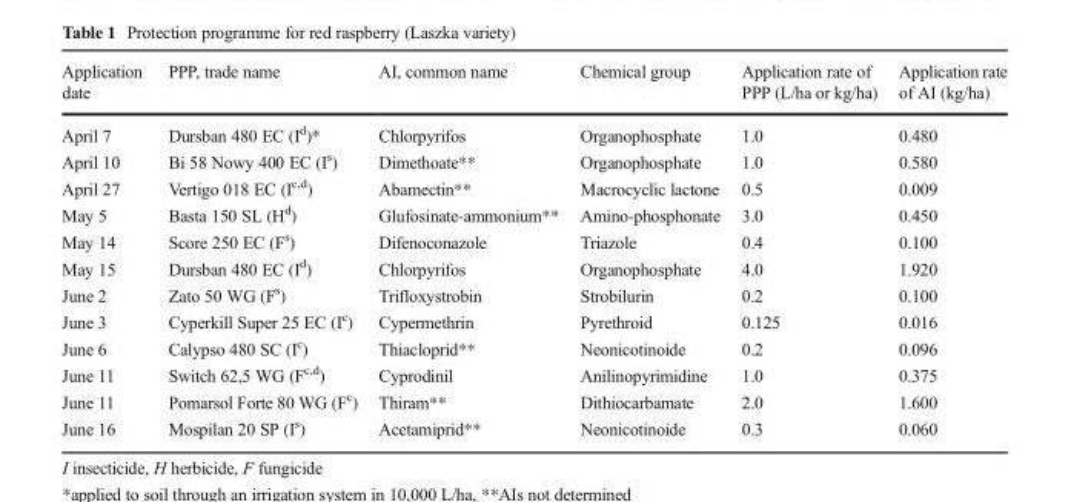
<table><thead><tr><td>Application date</td><td>PPP, trade name</td><td>AI, common name</td><td>Chemical group</td><td>Application rate of PPP (L/ha or kg/ha)</td><td>Application rate of AI (kg/ha)</td></tr></thead><tbody><tr><td>April 7</td><td>Dursban 480 EC (I<sup>d</sup>)*</td><td>Chlorpyrifos</td><td>Organophosphate</td><td>1.0</td><td>0.480</td></tr><tr><td>April 10</td><td>Bi 58 Nowy 400 EC (I<sup>s</sup>)</td><td>Dimethoate**</td><td>Organophosphate</td><td>1.0</td><td>0.580</td></tr><tr><td>April 27</td><td>Vertigo 018 EC (I<sup>c,d</sup>)</td><td>Abamectin**</td><td>Macrocyclic lactone</td><td>0.5</td><td>0.009</td></tr><tr><td>May 5</td><td>Basta 150 SL (H<sup>d</sup>)</td><td>Glufosinate-ammonium**</td><td>Amino-phosphonate</td><td>3.0</td><td>0.450</td></tr><tr><td>May 14</td><td>Score 250 EC (F<sup>s</sup>)</td><td>Difenoconazole</td><td>Triazole</td><td>0.4</td><td>0.100</td></tr><tr><td>May 15</td><td>Dursban 480 EC (I<sup>d</sup>)</td><td>Chlorpyrifos</td><td>Organophosphate</td><td>4.0</td><td>1.920</td></tr><tr><td>June 2</td><td>Zato 50 WG (F<sup>s</sup>)</td><td>Trifloxystrobin</td><td>Strobilurin</td><td>0.2</td><td>0.100</td></tr><tr><td>June 3</td><td>Cyperkill Super 25 EC (I<sup>c</sup>)</td><td>Cypermethrin</td><td>Pyrethroid</td><td>0.125</td><td>0.016</td></tr><tr><td>June 6</td><td>Calypso 480 SC (I<sup>c</sup>)</td><td>Thiacloprid**</td><td>Neonicotinoide</td><td>0.2</td><td>0.096</td></tr><tr><td>June 11</td><td>Switch 62,5 WG (F<sup>c,d</sup>)</td><td>Cyprodinil</td><td>Anilinopyrimidine</td><td>1.0</td><td>0.375</td></tr><tr><td>June 11</td><td>Pomarsol Forte 80 WG (F<sup>c</sup>)</td><td>Thiram**</td><td>Dithiocarbamate</td><td>2.0</td><td>1.600</td></tr><tr><td>June 16</td><td>Mospilan 20 SP (I<sup>s</sup>)</td><td>Acetamiprid**</td><td>Neonicotinoide</td><td>0.3</td><td>0.060</td></tr></tbody></table>